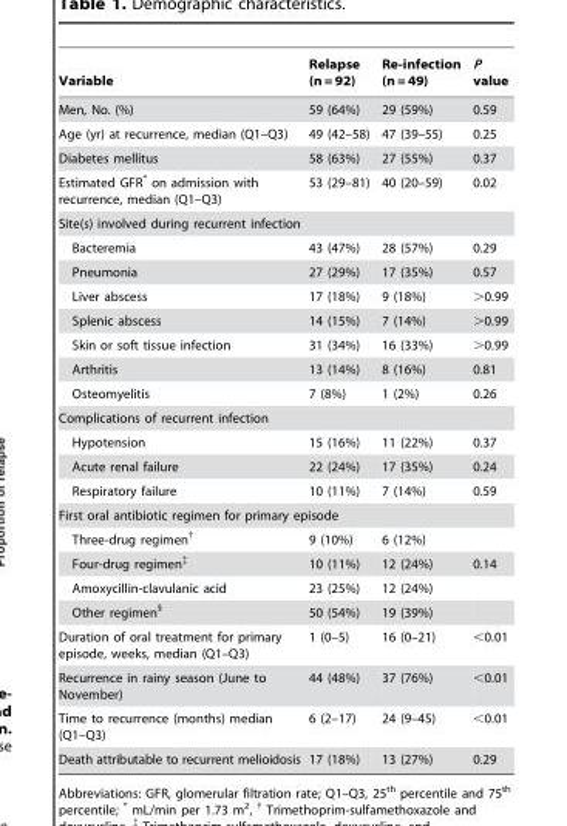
<table><thead><tr><td>Variable</td><td>Relapse (n = 92)</td><td>Re-infection (n = 49)</td><td>P value</td></tr></thead><tbody><tr><td>Men, No. (%)</td><td>59 (64%)</td><td>29 (59%)</td><td>0.59</td></tr><tr><td>Age (yr) at recurrence, median (Q1–Q3)</td><td>49 (42–58)</td><td>47 (39–55)</td><td>0.25</td></tr><tr><td>Diabetes mellitus</td><td>58 (63%)</td><td>27 (55%)</td><td>0.37</td></tr><tr><td>Estimated GFR* on admission with recurrence, median (Q1–Q3)</td><td>53 (29–81)</td><td>40 (20–59)</td><td>0.02</td></tr><tr><td colspan="4">Site(s) involved during recurrent infection</td></tr><tr><td>Bacteremia</td><td>43 (47%)</td><td>28 (57%)</td><td>0.29</td></tr><tr><td>Pneumonia</td><td>27 (29%)</td><td>17 (35%)</td><td>0.57</td></tr><tr><td>Liver abscess</td><td>17 (18%)</td><td>9 (18%)</td><td>&gt;0.99</td></tr><tr><td>Splenic abscess</td><td>14 (15%)</td><td>7 (14%)</td><td>&gt;0.99</td></tr><tr><td>Skin or soft tissue infection</td><td>31 (34%)</td><td>16 (33%)</td><td>&gt;0.99</td></tr><tr><td>Arthritis</td><td>13 (14%)</td><td>8 (16%)</td><td>0.81</td></tr><tr><td>Osteomyelitis</td><td>7 (8%)</td><td>1 (2%)</td><td>0.26</td></tr><tr><td colspan="4">Complications of recurrent infection</td></tr><tr><td>Hypotension</td><td>15 (16%)</td><td>11 (22%)</td><td>0.37</td></tr><tr><td>Acute renal failure</td><td>22 (24%)</td><td>17 (35%)</td><td>0.24</td></tr><tr><td>Respiratory failure</td><td>10 (11%)</td><td>7 (14%)</td><td>0.59</td></tr><tr><td colspan="4">First oral antibiotic regimen for primary episode</td></tr><tr><td>Three-drug regimen†</td><td>9 (10%)</td><td>6 (12%)</td><td></td></tr><tr><td>Four-drug regimen‡</td><td>10 (11%)</td><td>12 (24%)</td><td>0.14</td></tr><tr><td>Amoxycillin-clavulanic acid</td><td>23 (25%)</td><td>12 (24%)</td><td></td></tr><tr><td>Other regimen§</td><td>50 (54%)</td><td>19 (39%)</td><td></td></tr><tr><td>Duration of oral treatment for primary episode, weeks, median (Q1–Q3)</td><td>1 (0–5)</td><td>16 (0–21)</td><td>&lt;0.01</td></tr><tr><td>Recurrence in rainy season (June to November)</td><td>44 (48%)</td><td>37 (76%)</td><td>&lt;0.01</td></tr><tr><td>Time to recurrence (months) median (Q1–Q3)</td><td>6 (2–17)</td><td>24 (9–45)</td><td>&lt;0.01</td></tr><tr><td>Death attributable to recurrent melioidosis</td><td>17 (18%)</td><td>13 (27%)</td><td>0.29</td></tr></tbody></table>